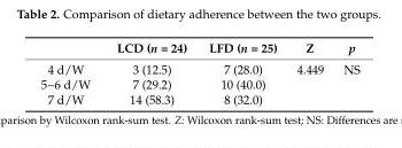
<table><thead><tr><td></td><td>LCD (n = 24)</td><td>LFD (n = 25)</td><td>Z</td><td>p</td></tr></thead><tbody><tr><td>4 d/W</td><td>3 (12.5)</td><td>7 (28.0)</td><td>4.449</td><td>NS</td></tr><tr><td>5~6 d/W</td><td>7 (29.2)</td><td>10 (40.0)</td><td></td><td></td></tr><tr><td>7 d/W</td><td>14 (58.3)</td><td>8 (32.0)</td><td></td><td></td></tr></tbody></table>